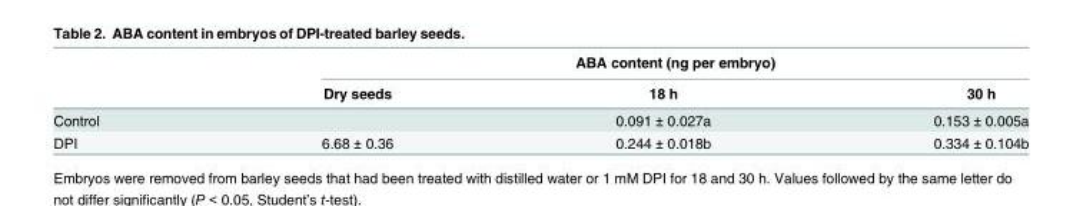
<table><thead><tr><td rowspan="2"></td><td colspan="3">ABA content (ng per embryo)</td></tr><tr><td>Dry seeds</td><td>18 h</td><td>30 h</td></tr></thead><tbody><tr><td>Control</td><td></td><td>0.091 ± 0.027a</td><td>0.153 ± 0.005a</td></tr><tr><td>DPI</td><td>6.68 ± 0.36</td><td>0.244 ± 0.018b</td><td>0.334 ± 0.104b</td></tr></tbody></table>